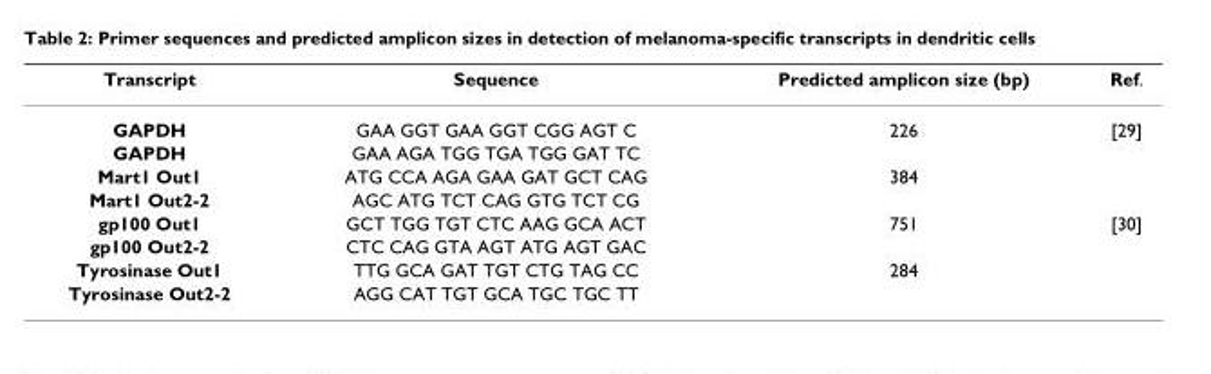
<table><thead><tr><td>Transcript</td><td>Sequence</td><td>Predicted amplicon size (bp)</td><td>Ref.</td></tr></thead><tbody><tr><td>GAPDH</td><td>GAA GGT GAA GGT CGG AGT C</td><td>226</td><td>[29]</td></tr><tr><td>GAPDH</td><td>GAA AGA TGG TGA TGG GAT TC</td><td></td><td></td></tr><tr><td>Mart1 Out1</td><td>ATG CCA AGA GAA GAT GCT CAG</td><td>384</td><td></td></tr><tr><td>Mart1 Out2-2</td><td>AGC ATG TCT CAG GTG TCT CG</td><td></td><td></td></tr><tr><td>gp100 Out1</td><td>GCT TGG TGT CTC AAG GCA ACT</td><td>751</td><td>[30]</td></tr><tr><td>gp100 Out2-2</td><td>CTC CAG GTA AGT ATG AGT GAC</td><td></td><td></td></tr><tr><td>Tyrosinase Out1</td><td>TTG GCA GAT TGT CTG TAG CC</td><td>284</td><td></td></tr><tr><td>Tyrosinase Out2-2</td><td>AGG CAT TGT GCA TGC TGC TT</td><td></td><td></td></tr></tbody></table>